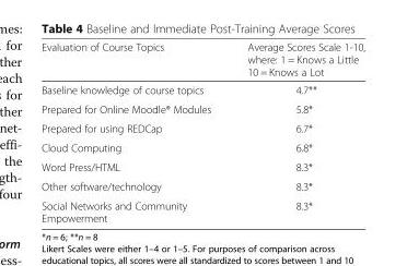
<table><thead><tr><td>Evaluation of Course Topics</td><td>Average Scores Scale 1-10, where: 1 = Knows a Little 10 = Knows a Lot</td></tr></thead><tbody><tr><td>Baseline knowledge of course topics</td><td>4.7**</td></tr><tr><td>Prepared for Online Moodle® Modules</td><td>5.8*</td></tr><tr><td>Prepared for using REDCap</td><td>6.7*</td></tr><tr><td>Cloud Computing</td><td>6.8*</td></tr><tr><td>Word Press/HTML</td><td>8.3*</td></tr><tr><td>Other software/technology</td><td>8.3*</td></tr><tr><td>Social Networks and Community Empowerment</td><td>8.3*</td></tr></tbody></table>